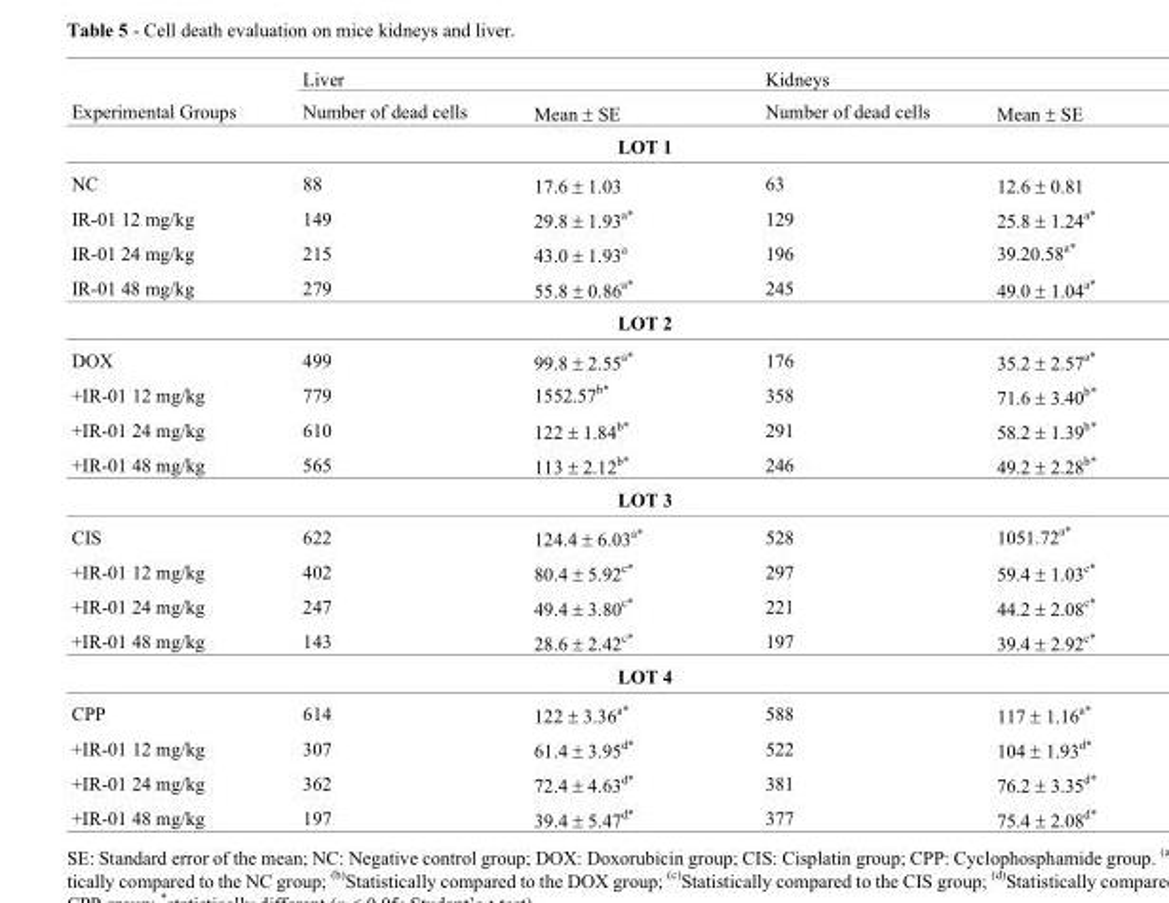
<table><thead><tr><td rowspan="2">Experimental Groups</td><td colspan="2">Liver</td><td colspan="2">Kidneys</td></tr><tr><td>Number of dead cells</td><td>Mean ± SE</td><td>Number of dead cells</td><td>Mean ± SE</td></tr></thead><tbody><tr><td colspan="5">LOT 1</td></tr><tr><td>NC</td><td>88</td><td>17.6 ± 1.03</td><td>63</td><td>12.6 ± 0.81</td></tr><tr><td>IR-01 12 mg/kg</td><td>149</td><td>29.8 ± 1.93<sup>a*</sup></td><td>129</td><td>25.8 ± 1.24<sup>a*</sup></td></tr><tr><td>IR-01 24 mg/kg</td><td>215</td><td>43.0 ± 1.93<sup>a</sup></td><td>196</td><td>39.20.58<sup>a*</sup></td></tr><tr><td>IR-01 48 mg/kg</td><td>279</td><td>55.8 ± 0.86<sup>a*</sup></td><td>245</td><td>49.0 ± 1.04<sup>a*</sup></td></tr><tr><td colspan="5">LOT 2</td></tr><tr><td>DOX</td><td>499</td><td>99.8 ± 2.55<sup>a*</sup></td><td>176</td><td>35.2 ± 2.57<sup>a*</sup></td></tr><tr><td>+IR-01 12 mg/kg</td><td>779</td><td>1552.57<sup>b*</sup></td><td>358</td><td>71.6 ± 3.40<sup>b*</sup></td></tr><tr><td>+IR-01 24 mg/kg</td><td>610</td><td>122 ± 1.84<sup>b*</sup></td><td>291</td><td>58.2 ± 1.39<sup>b*</sup></td></tr><tr><td>+IR-01 48 mg/kg</td><td>565</td><td>113 ± 2.12<sup>b*</sup></td><td>246</td><td>49.2 ± 2.28<sup>b*</sup></td></tr><tr><td colspan="5">LOT 3</td></tr><tr><td>CIS</td><td>622</td><td>124.4 ± 6.03<sup>a*</sup></td><td>528</td><td>1051.72<sup>a*</sup></td></tr><tr><td>+IR-01 12 mg/kg</td><td>402</td><td>80.4 ± 5.92<sup>c*</sup></td><td>297</td><td>59.4 ± 1.03<sup>c*</sup></td></tr><tr><td>+IR-01 24 mg/kg</td><td>247</td><td>49.4 ± 3.80<sup>c*</sup></td><td>221</td><td>44.2 ± 2.08<sup>c*</sup></td></tr><tr><td>+IR-01 48 mg/kg</td><td>143</td><td>28.6 ± 2.42<sup>c*</sup></td><td>197</td><td>39.4 ± 2.92<sup>c*</sup></td></tr><tr><td colspan="5">LOT 4</td></tr><tr><td>CPP</td><td>614</td><td>122 ± 3.36<sup>a*</sup></td><td>588</td><td>117 ± 1.16<sup>a*</sup></td></tr><tr><td>+IR-01 12 mg/kg</td><td>307</td><td>61.4 ± 3.95<sup>d*</sup></td><td>522</td><td>104 ± 1.93<sup>d*</sup></td></tr><tr><td>+IR-01 24 mg/kg</td><td>362</td><td>72.4 ± 4.63<sup>d*</sup></td><td>381</td><td>76.2 ± 3.35<sup>d*</sup></td></tr><tr><td>+IR-01 48 mg/kg</td><td>197</td><td>39.4 ± 5.47<sup>d*</sup></td><td>377</td><td>75.4 ± 2.08<sup>d*</sup></td></tr></tbody></table>